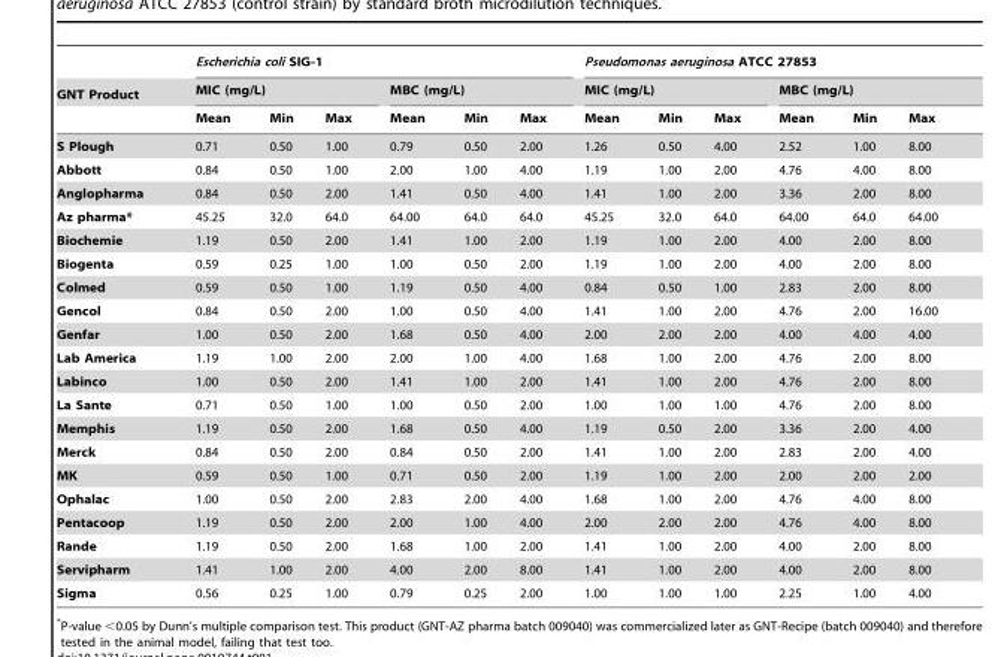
<table><thead><tr><td rowspan="3">GNT Product</td><td colspan="6">Escherichia coli SIG-1</td><td colspan="6">Pseudomonas aeruginosa ATCC 27853</td></tr><tr><td colspan="3">MIC (mg/L)</td><td colspan="3">MBC (mg/L)</td><td colspan="3">MIC (mg/L)</td><td colspan="3">MBC (mg/L)</td></tr><tr><td>Mean</td><td>Min</td><td>Max</td><td>Mean</td><td>Min</td><td>Max</td><td>Mean</td><td>Min</td><td>Max</td><td>Mean</td><td>Min</td><td>Max</td></tr></thead><tbody><tr><td>S Plough</td><td>0.71</td><td>0.50</td><td>1.00</td><td>0.79</td><td>0.50</td><td>2.00</td><td>1.26</td><td>0.50</td><td>4.00</td><td>2.52</td><td>1.00</td><td>8.00</td></tr><tr><td>Abbott</td><td>0.84</td><td>0.50</td><td>1.00</td><td>2.00</td><td>1.00</td><td>4.00</td><td>1.19</td><td>1.00</td><td>2.00</td><td>4.76</td><td>4.00</td><td>8.00</td></tr><tr><td>Anglopharma</td><td>0.84</td><td>0.50</td><td>2.00</td><td>1.41</td><td>0.50</td><td>4.00</td><td>1.41</td><td>1.00</td><td>2.00</td><td>3.36</td><td>2.00</td><td>8.00</td></tr><tr><td>Az pharma*</td><td>45.25</td><td>32.0</td><td>64.0</td><td>64.00</td><td>64.0</td><td>64.0</td><td>45.25</td><td>32.0</td><td>64.0</td><td>64.00</td><td>64.0</td><td>64.00</td></tr><tr><td>Biochemie</td><td>1.19</td><td>0.50</td><td>2.00</td><td>1.41</td><td>1.00</td><td>2.00</td><td>1.19</td><td>1.00</td><td>2.00</td><td>4.00</td><td>2.00</td><td>8.00</td></tr><tr><td>Biogenta</td><td>0.59</td><td>0.25</td><td>1.00</td><td>1.00</td><td>0.50</td><td>2.00</td><td>1.19</td><td>1.00</td><td>2.00</td><td>4.00</td><td>2.00</td><td>8.00</td></tr><tr><td>Colmed</td><td>0.59</td><td>0.50</td><td>1.00</td><td>1.19</td><td>0.50</td><td>4.00</td><td>0.84</td><td>0.50</td><td>1.00</td><td>2.83</td><td>2.00</td><td>8.00</td></tr><tr><td>Gencol</td><td>0.84</td><td>0.50</td><td>2.00</td><td>1.00</td><td>0.50</td><td>4.00</td><td>1.41</td><td>1.00</td><td>2.00</td><td>4.76</td><td>2.00</td><td>16.00</td></tr><tr><td>Genfar</td><td>1.00</td><td>0.50</td><td>2.00</td><td>1.68</td><td>0.50</td><td>4.00</td><td>2.00</td><td>2.00</td><td>2.00</td><td>4.00</td><td>4.00</td><td>4.00</td></tr><tr><td>Lab America</td><td>1.19</td><td>1.00</td><td>2.00</td><td>2.00</td><td>1.00</td><td>4.00</td><td>1.68</td><td>1.00</td><td>2.00</td><td>4.76</td><td>2.00</td><td>8.00</td></tr><tr><td>Labinco</td><td>1.00</td><td>0.50</td><td>2.00</td><td>1.41</td><td>1.00</td><td>2.00</td><td>1.41</td><td>1.00</td><td>2.00</td><td>4.76</td><td>2.00</td><td>8.00</td></tr><tr><td>La Sante</td><td>0.71</td><td>0.50</td><td>1.00</td><td>1.00</td><td>0.50</td><td>2.00</td><td>1.00</td><td>1.00</td><td>1.00</td><td>4.76</td><td>2.00</td><td>8.00</td></tr><tr><td>Memphis</td><td>1.19</td><td>0.50</td><td>2.00</td><td>1.68</td><td>0.50</td><td>4.00</td><td>1.19</td><td>0.50</td><td>2.00</td><td>3.36</td><td>2.00</td><td>4.00</td></tr><tr><td>Merck</td><td>0.84</td><td>0.50</td><td>2.00</td><td>0.84</td><td>0.50</td><td>2.00</td><td>1.41</td><td>1.00</td><td>2.00</td><td>2.83</td><td>2.00</td><td>4.00</td></tr><tr><td>MK</td><td>0.59</td><td>0.50</td><td>1.00</td><td>0.71</td><td>0.50</td><td>2.00</td><td>1.19</td><td>1.00</td><td>2.00</td><td>2.00</td><td>2.00</td><td>2.00</td></tr><tr><td>Ophalac</td><td>1.00</td><td>0.50</td><td>2.00</td><td>2.83</td><td>2.00</td><td>4.00</td><td>1.68</td><td>1.00</td><td>2.00</td><td>4.76</td><td>4.00</td><td>8.00</td></tr><tr><td>Pentacoop</td><td>1.19</td><td>0.50</td><td>2.00</td><td>2.00</td><td>1.00</td><td>4.00</td><td>2.00</td><td>2.00</td><td>2.00</td><td>4.76</td><td>4.00</td><td>8.00</td></tr><tr><td>Rande</td><td>1.19</td><td>0.50</td><td>2.00</td><td>1.68</td><td>1.00</td><td>2.00</td><td>1.41</td><td>1.00</td><td>2.00</td><td>4.00</td><td>2.00</td><td>8.00</td></tr><tr><td>Servipharm</td><td>1.41</td><td>1.00</td><td>2.00</td><td>4.00</td><td>2.00</td><td>8.00</td><td>1.41</td><td>1.00</td><td>2.00</td><td>4.00</td><td>2.00</td><td>8.00</td></tr><tr><td>Sigma</td><td>0.56</td><td>0.25</td><td>1.00</td><td>0.79</td><td>0.25</td><td>2.00</td><td>1.00</td><td>1.00</td><td>1.00</td><td>2.25</td><td>1.00</td><td>4.00</td></tr></tbody></table>